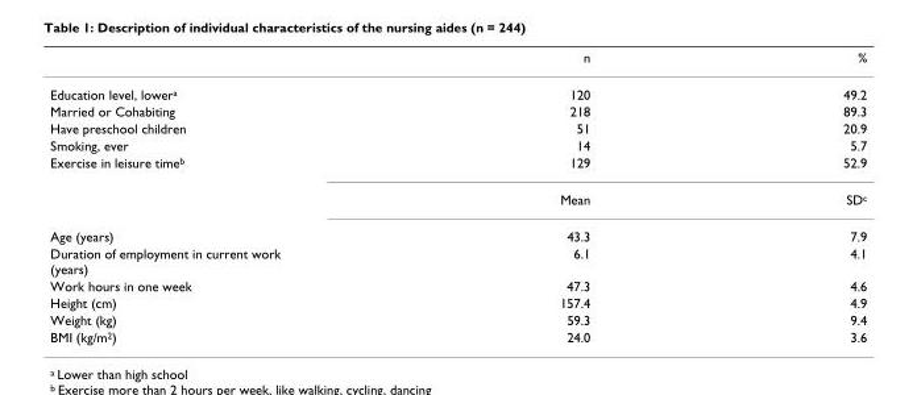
<table><thead><tr><td></td><td>n</td><td>%</td></tr></thead><tbody><tr><td>Education level, lower<sup>a</sup></td><td>120</td><td>49.2</td></tr><tr><td>Married or Cohabiting</td><td>218</td><td>89.3</td></tr><tr><td>Have preschool children</td><td>51</td><td>20.9</td></tr><tr><td>Smoking, ever</td><td>14</td><td>5.7</td></tr><tr><td rowspan="2">Exercise in leisure time<sup>b</sup></td><td>129</td><td>52.9</td></tr><tr><td>Mean</td><td>SD<sup>c</sup></td></tr><tr><td>Age (years)</td><td>43.3</td><td>7.9</td></tr><tr><td>Duration of employment in current work (years)</td><td>6.1</td><td>4.1</td></tr><tr><td>Work hours in one week</td><td>47.3</td><td>4.6</td></tr><tr><td>Height (cm)</td><td>157.4</td><td>4.9</td></tr><tr><td>Weight (kg)</td><td>59.3</td><td>9.4</td></tr><tr><td>BMI (kg/m<sup>2</sup>)</td><td>24.0</td><td>3.6</td></tr></tbody></table>